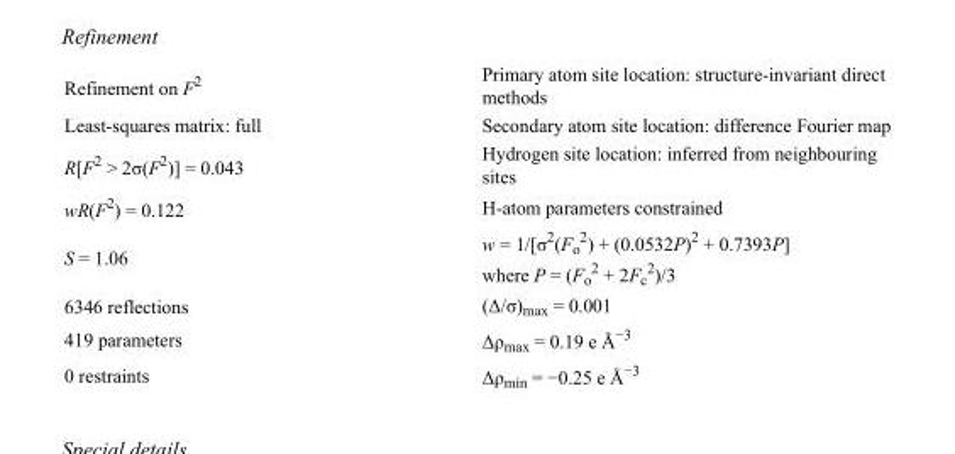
<table><tbody><tr><td>Refinement on F<sup>2</sup></td><td>Primary atom site location: structure-invariant direct methods</td></tr><tr><td>Least-squares matrix: full</td><td>Secondary atom site location: difference Fourier map</td></tr><tr><td>R[F<sup>2</sup> &gt; 2σ(F<sup>2</sup>)] = 0.043</td><td>Hydrogen site location: inferred from neighbouring sites</td></tr><tr><td>wR(F<sup>2</sup>) = 0.122</td><td>H-atom parameters constrained</td></tr><tr><td>S = 1.06</td><td>w = 1/[σ<sup>2</sup>(F<sub>o</sub> <sup>2</sup>) + (0.0532P)<sup>2</sup> + 0.7393P] where P = (F<sub>o</sub> <sup>2</sup> + 2F<sub>c</sub> <sup>2</sup>)/3</td></tr><tr><td>6346 reflections</td><td>(Δ/σ)<sub>max</sub> = 0.001</td></tr><tr><td>419 parameters</td><td>Δρ<sub>max</sub> = 0.19 e Å<sup>−3</sup></td></tr><tr><td>0 restraints</td><td>Δρ<sub>min</sub> = −0.25 e Å<sup>−3</sup></td></tr></tbody></table>